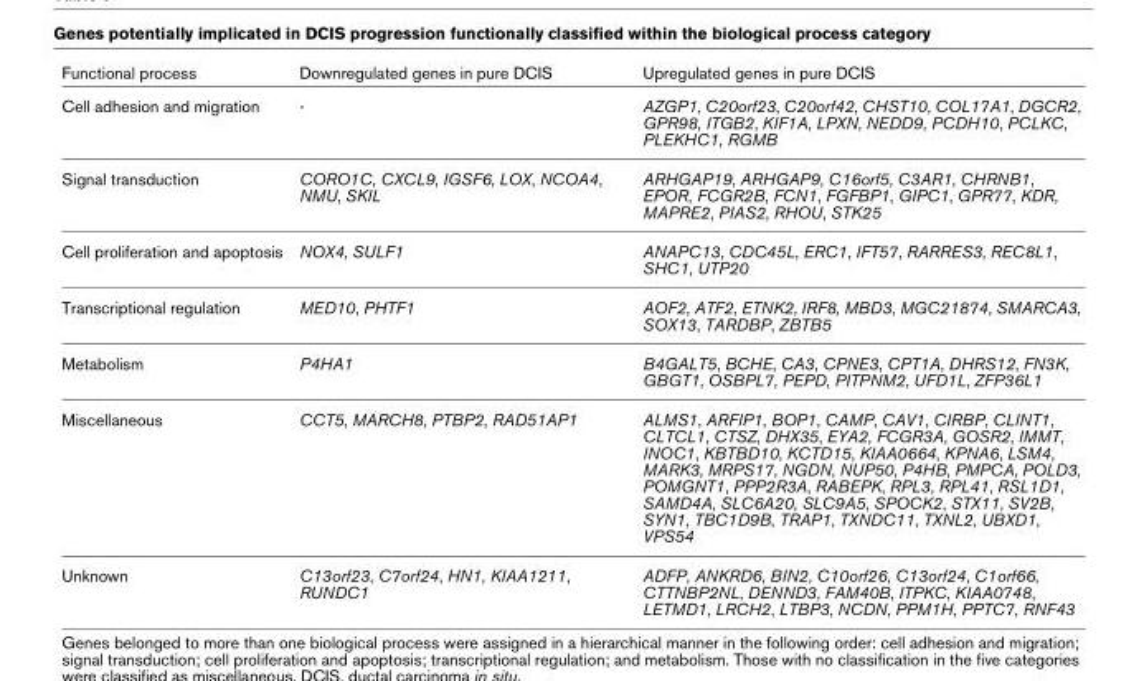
<table><thead><tr><td>Functional process</td><td>Downregulated genes in pure DCIS</td><td>Upregulated genes in pure DCIS</td></tr></thead><tbody><tr><td>Cell adhesion and migration</td><td>-</td><td>AZGP1, C20orf23, C20orf42, CHST10, COL17A1, DGCR2, GPR98, ITGB2, KIF1A, LPXN, NEDD9, PCDH10, PCLKC, PLEKHC1, RGMB</td></tr><tr><td>Signal transduction</td><td>CORO1C, CXCL9, IGSF6, LOX, NCOA4, NMU, SKIL</td><td>ARHGAP19, ARHGAP9, C16orf5, C3AR1, CHRNB1, EPOR, FCGR2B, FCN1, FGFBP1, GIPC1, GPR77, KDR, MAPRE2, PIAS2, RHOU, STK25</td></tr><tr><td>Cell proliferation and apoptosis</td><td>NOX4, SULF1</td><td>ANAPC13, CDC45L, ERC1, IFT57, RARRES3, REC8L1, SHC1, UTP20</td></tr><tr><td>Transcriptional regulation</td><td>MED10, PHTF1</td><td>AOF2, ATF2, ETNK2, IRF8, MBD3, MGC21874, SMARCA3, SOX13, TARDBP, ZBTB5</td></tr><tr><td>Metabolism</td><td>P4HA1</td><td>B4GALT5, BCHE, CA3, CPNE3, CPT1A, DHRS12, FN3K, GBGT1, OSBPL7, PEPD, PITPNM2, UFD1L, ZFP36L1</td></tr><tr><td>Miscellaneous</td><td>CCT5, MARCH8, PTBP2, RAD51AP1</td><td>ALMS1, ARFIP1, BOP1, CAMP, CAV1, CIRBP, CLINT1, CLTCL1, CTSZ, DHX35, EYA2, FCGR3A, GOSR2, IMMT, INOC1, KBTBD10, KCTD15, KIAA0664, KPNA6, LSM4, MARK3, MRPS17, NGDN, NUP50, P4HB, PMPCA, POLD3, POMGNT1, PPP2R3A, RABEPK, RPL3, RPL41, RSL1D1, SAMD4A, SLC6A20, SLC9A5, SPOCK2, STX11, SV2B, SYN1, TBC1D9B, TRAP1, TXNDC11, TXNL2, UBXD1, VPS54</td></tr><tr><td>Unknown</td><td>C13orf23, C7orf24, HN1, KIAA1211, RUNDC1</td><td>ADFP, ANKRD6, BIN2, C10orf26, C13orf24, C1orf66, CTTNBP2NL, DENND3, FAM40B, ITPKC, KIAA0748, LETMD1, LRCH2, LTBP3, NCDN, PPM1H, PPTC7, RNF43</td></tr></tbody></table>